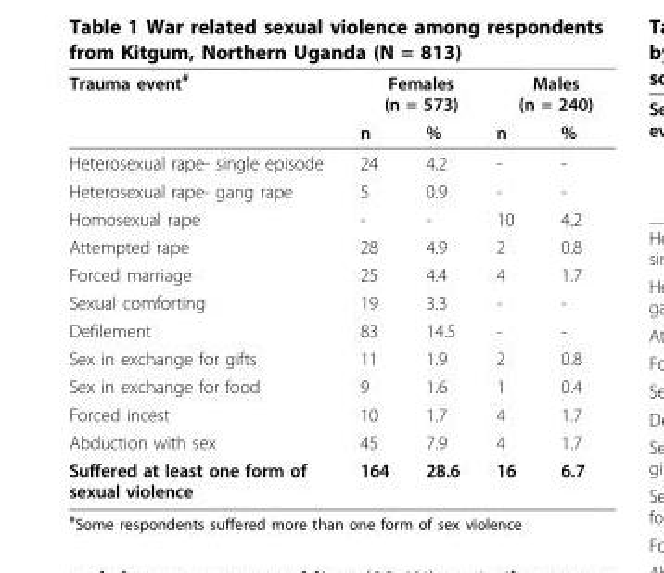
<table><thead><tr><td rowspan="2">Trauma event<sup>#</sup></td><td colspan="2">Females (n = 573)</td><td colspan="2">Males (n = 240)</td></tr><tr><td>n</td><td>%</td><td>n</td><td>%</td></tr></thead><tbody><tr><td>Heterosexual rape- single episode</td><td>24</td><td>4.2</td><td>-</td><td>-</td></tr><tr><td>Heterosexual rape- gang rape</td><td>5</td><td>0.9</td><td>-</td><td>-</td></tr><tr><td>Homosexual rape</td><td>-</td><td>-</td><td>10</td><td>4.2</td></tr><tr><td>Attempted rape</td><td>28</td><td>4.9</td><td>2</td><td>0.8</td></tr><tr><td>Forced marriage</td><td>25</td><td>4.4</td><td>4</td><td>1.7</td></tr><tr><td>Sexual comforting</td><td>19</td><td>3.3</td><td>-</td><td>-</td></tr><tr><td>Defilement</td><td>83</td><td>14.5</td><td>-</td><td>-</td></tr><tr><td>Sex in exchange for gifts</td><td>11</td><td>1.9</td><td>2</td><td>0.8</td></tr><tr><td>Sex in exchange for food</td><td>9</td><td>1.6</td><td>1</td><td>0.4</td></tr><tr><td>Forced incest</td><td>10</td><td>1.7</td><td>4</td><td>1.7</td></tr><tr><td>Abduction with sex</td><td>45</td><td>7.9</td><td>4</td><td>1.7</td></tr><tr><td>Suffered at least one form of sexual violence</td><td>164</td><td>28.6</td><td>16</td><td>6.7</td></tr></tbody></table>